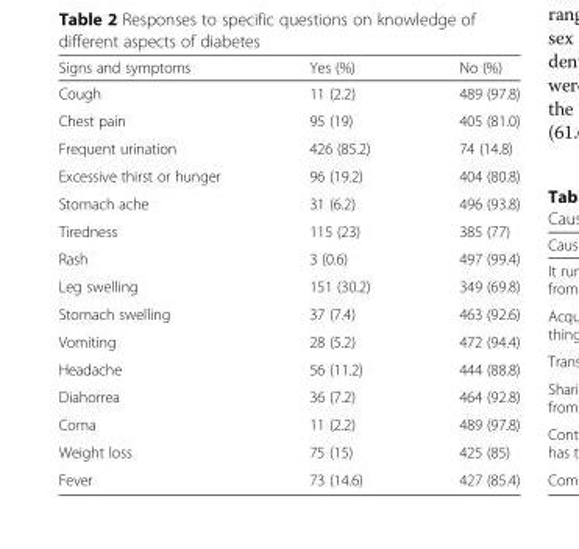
<table><thead><tr><td>Signs and symptoms</td><td>Yes (%)</td><td>No (%)</td></tr></thead><tbody><tr><td>Cough</td><td>11 (2.2)</td><td>489 (97.8)</td></tr><tr><td>Chest pain</td><td>95 (19)</td><td>405 (81.0)</td></tr><tr><td>Frequent urination</td><td>426 (85.2)</td><td>74 (14.8)</td></tr><tr><td>Excessive thirst or hunger</td><td>96 (19.2)</td><td>404 (80.8)</td></tr><tr><td>Stomach ache</td><td>31 (6.2)</td><td>496 (93.8)</td></tr><tr><td>Tiredness</td><td>115 (23)</td><td>385 (77)</td></tr><tr><td>Rash</td><td>3 (0.6)</td><td>497 (99.4)</td></tr><tr><td>Leg swelling</td><td>151 (30.2)</td><td>349 (69.8)</td></tr><tr><td>Stomach swelling</td><td>37 (7.4)</td><td>463 (92.6)</td></tr><tr><td>Vomiting</td><td>28 (5.2)</td><td>472 (94.4)</td></tr><tr><td>Headache</td><td>56 (11.2)</td><td>444 (88.8)</td></tr><tr><td>Diahorrea</td><td>36 (7.2)</td><td>464 (92.8)</td></tr><tr><td>Coma</td><td>11 (2.2)</td><td>489 (97.8)</td></tr><tr><td>Weight loss</td><td>75 (15)</td><td>425 (85)</td></tr><tr><td>Fever</td><td>73 (14.6)</td><td>427 (85.4)</td></tr></tbody></table>